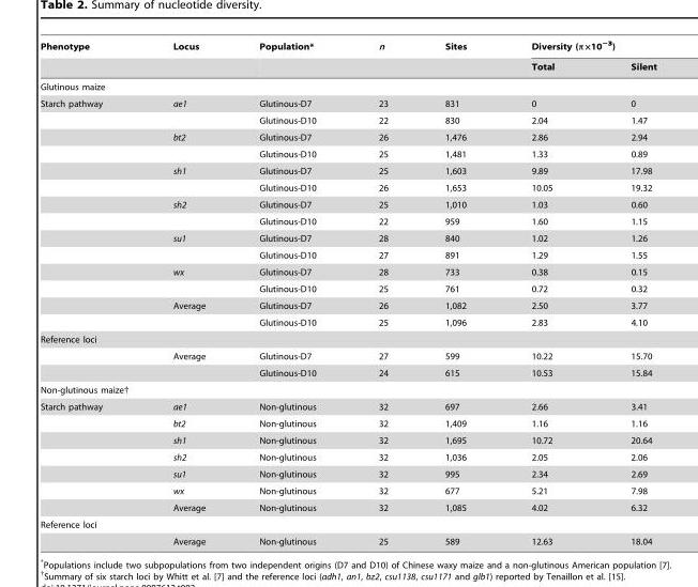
<table><thead><tr><td rowspan="2">Phenotype</td><td rowspan="2">Locus</td><td rowspan="2">Population*</td><td rowspan="2">n</td><td rowspan="2">Sites</td><td colspan="2">Diversity (π×10<sup>−3</sup>)</td></tr><tr><td>Total</td><td>Silent</td></tr></thead><tbody><tr><td colspan="7">Glutinous maize</td></tr><tr><td rowspan="14">Starch pathway</td><td>ae1</td><td>Glutinous-D7</td><td>23</td><td>831</td><td>0</td><td>0</td></tr><tr><td></td><td>Glutinous-D10</td><td>22</td><td>830</td><td>2.04</td><td>1.47</td></tr><tr><td>bt2</td><td>Glutinous-D7</td><td>26</td><td>1,476</td><td>2.86</td><td>2.94</td></tr><tr><td></td><td>Glutinous-D10</td><td>25</td><td>1,481</td><td>1.33</td><td>0.89</td></tr><tr><td>sh1</td><td>Glutinous-D7</td><td>25</td><td>1,603</td><td>9.89</td><td>17.98</td></tr><tr><td></td><td>Glutinous-D10</td><td>26</td><td>1,653</td><td>10.05</td><td>19.32</td></tr><tr><td>sh2</td><td>Glutinous-D7</td><td>25</td><td>1,010</td><td>1.03</td><td>0.60</td></tr><tr><td></td><td>Glutinous-D10</td><td>22</td><td>959</td><td>1.60</td><td>1.15</td></tr><tr><td>su1</td><td>Glutinous-D7</td><td>28</td><td>840</td><td>1.02</td><td>1.26</td></tr><tr><td></td><td>Glutinous-D10</td><td>27</td><td>891</td><td>1.29</td><td>1.55</td></tr><tr><td>wx</td><td>Glutinous-D7</td><td>28</td><td>733</td><td>0.38</td><td>0.15</td></tr><tr><td></td><td>Glutinous-D10</td><td>25</td><td>761</td><td>0.72</td><td>0.32</td></tr><tr><td>Average</td><td>Glutinous-D7</td><td>26</td><td>1,082</td><td>2.50</td><td>3.77</td></tr><tr><td></td><td>Glutinous-D10</td><td>25</td><td>1,096</td><td>2.83</td><td>4.10</td></tr><tr><td colspan="7">Reference loci</td></tr><tr><td></td><td>Average</td><td>Glutinous-D7</td><td>27</td><td>599</td><td>10.22</td><td>15.70</td></tr><tr><td></td><td></td><td>Glutinous-D10</td><td>24</td><td>615</td><td>10.53</td><td>15.84</td></tr><tr><td colspan="7">Non-glutinous maize†</td></tr><tr><td rowspan="7">Starch pathway</td><td>ae1</td><td>Non-glutinous</td><td>32</td><td>697</td><td>2.66</td><td>3.41</td></tr><tr><td>bt2</td><td>Non-glutinous</td><td>32</td><td>1,409</td><td>1.16</td><td>1.16</td></tr><tr><td>sh1</td><td>Non-glutinous</td><td>32</td><td>1,695</td><td>10.72</td><td>20.64</td></tr><tr><td>sh2</td><td>Non-glutinous</td><td>32</td><td>1,036</td><td>2.05</td><td>2.06</td></tr><tr><td>su1</td><td>Non-glutinous</td><td>32</td><td>995</td><td>2.34</td><td>2.69</td></tr><tr><td>wx</td><td>Non-glutinous</td><td>32</td><td>677</td><td>5.21</td><td>7.98</td></tr><tr><td>Average</td><td>Non-glutinous</td><td>32</td><td>1,085</td><td>4.02</td><td>6.32</td></tr><tr><td colspan="7">Reference loci</td></tr><tr><td></td><td>Average</td><td>Non-glutinous</td><td>25</td><td>589</td><td>12.63</td><td>18.04</td></tr></tbody></table>